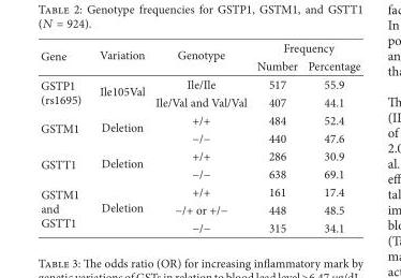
<table><thead><tr><td rowspan="2">Gene</td><td rowspan="2">Variation</td><td rowspan="2">Genotype</td><td colspan="2">Frequency</td></tr><tr><td>Number</td><td>Percentage</td></tr></thead><tbody><tr><td rowspan="2">GSTP1 (rs1695)</td><td rowspan="2">Ile105Val</td><td>Ile/Ile</td><td>517</td><td>55.9</td></tr><tr><td>Ile/Val and Val/Val</td><td>407</td><td>44.1</td></tr><tr><td rowspan="2">GSTM1</td><td rowspan="2">Deletion</td><td>+/+</td><td>484</td><td>52.4</td></tr><tr><td>−/−</td><td>440</td><td>47.6</td></tr><tr><td rowspan="2">GSTT1</td><td rowspan="2">Deletion</td><td>+/+</td><td>286</td><td>30.9</td></tr><tr><td>−/−</td><td>638</td><td>69.1</td></tr><tr><td rowspan="3">GSTM1 and GSTT1</td><td rowspan="3">Deletion</td><td>+/+</td><td>161</td><td>17.4</td></tr><tr><td>−/+ or +/−</td><td>448</td><td>48.5</td></tr><tr><td>−/−</td><td>315</td><td>34.1</td></tr></tbody></table>